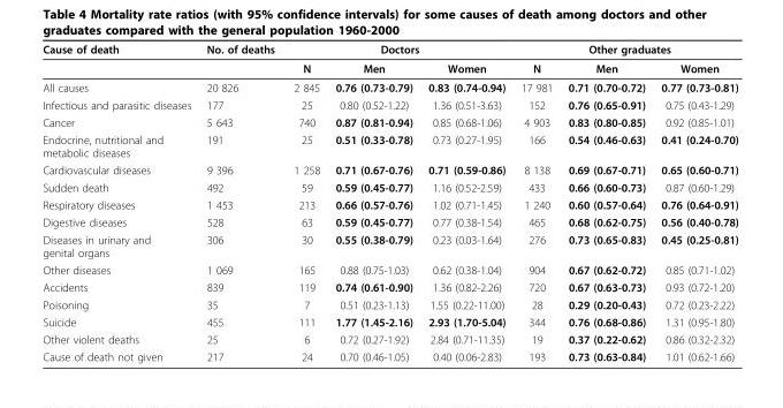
<table><thead><tr><td rowspan="2">Cause of death</td><td rowspan="2">No. of deaths</td><td colspan="3">Doctors</td><td colspan="3">Other graduates</td></tr><tr><td>N</td><td>Men</td><td>Women</td><td>N</td><td>Men</td><td>Women</td></tr></thead><tbody><tr><td>All causes</td><td>20 826</td><td>2 845</td><td>0.76 (0.73-0.79)</td><td>0.83 (0.74-0.94)</td><td>17 981</td><td>0.71 (0.70-0.72)</td><td>0.77 (0.73-0.81)</td></tr><tr><td>Infectious and parasitic diseases</td><td>177</td><td>25</td><td>0.80 (0.52-1.22)</td><td>1.36 (0.51-3.63)</td><td>152</td><td>0.76 (0.65-0.91)</td><td>0.75 (0.43-1.29)</td></tr><tr><td>Cancer</td><td>5 643</td><td>740</td><td>0.87 (0.81-0.94)</td><td>0.85 (0.68-1.06)</td><td>4 903</td><td>0.83 (0.80-0.85)</td><td>0.92 (0.85-1.01)</td></tr><tr><td>Endocrine, nutritional and metabolic diseases</td><td>191</td><td>25</td><td>0.51 (0.33-0.78)</td><td>0.73 (0.27-1.95)</td><td>166</td><td>0.54 (0.46-0.63)</td><td>0.41 (0.24-0.70)</td></tr><tr><td>Cardiovascular diseases</td><td>9 396</td><td>1 258</td><td>0.71 (0.67-0.76)</td><td>0.71 (0.59-0.86)</td><td>8 138</td><td>0.69 (0.67-0.71)</td><td>0.65 (0.60-0.71)</td></tr><tr><td>Sudden death</td><td>492</td><td>59</td><td>0.59 (0.45-0.77)</td><td>1.16 (0.52-2.59)</td><td>433</td><td>0.66 (0.60-0.73)</td><td>0.87 (0.60-1.29)</td></tr><tr><td>Respiratory diseases</td><td>1 453</td><td>213</td><td>0.66 (0.57-0.76)</td><td>1.02 (0.71-1.45)</td><td>1 240</td><td>0.60 (0.57-0.64)</td><td>0.76 (0.64-0.91)</td></tr><tr><td>Digestive diseases</td><td>528</td><td>63</td><td>0.59 (0.45-0.77)</td><td>0.77 (0.38-1.54)</td><td>465</td><td>0.68 (0.62-0.75)</td><td>0.56 (0.40-0.78)</td></tr><tr><td>Diseases in urinary and genital organs</td><td>306</td><td>30</td><td>0.55 (0.38-0.79)</td><td>0.23 (0.03-1.64)</td><td>276</td><td>0.73 (0.65-0.83)</td><td>0.45 (0.25-0.81)</td></tr><tr><td>Other diseases</td><td>1 069</td><td>165</td><td>0.88 (0.75-1.03)</td><td>0.62 (0.38-1.04)</td><td>904</td><td>0.67 (0.62-0.72)</td><td>0.85 (0.71-1.02)</td></tr><tr><td>Accidents</td><td>839</td><td>119</td><td>0.74 (0.61-0.90)</td><td>1.36 (0.82-2.26)</td><td>720</td><td>0.67 (0.63-0.73)</td><td>0.93 (0.72-1.20)</td></tr><tr><td>Poisoning</td><td>35</td><td>7</td><td>0.51 (0.23-1.13)</td><td>1.55 (0.22-11.00)</td><td>28</td><td>0.29 (0.20-0.43)</td><td>0.72 (0.23-2.22)</td></tr><tr><td>Suicide</td><td>455</td><td>111</td><td>1.77 (1.45-2.16)</td><td>2.93 (1.70-5.04)</td><td>344</td><td>0.76 (0.68-0.86)</td><td>1.31 (0.95-1.80)</td></tr><tr><td>Other violent deaths</td><td>25</td><td>6</td><td>0.72 (0.27-1.92)</td><td>2.84 (0.71-11.35)</td><td>19</td><td>0.37 (0.22-0.62)</td><td>0.86 (0.32-2.32)</td></tr><tr><td>Cause of death not given</td><td>217</td><td>24</td><td>0.70 (0.46-1.05)</td><td>0.40 (0.06-2.83)</td><td>193</td><td>0.73 (0.63-0.84)</td><td>1.01 (0.62-1.66)</td></tr></tbody></table>